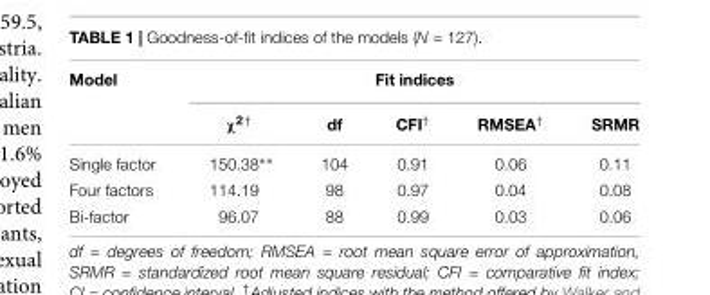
<table><thead><tr><td rowspan="2">Model</td><td colspan="5">Fit indices</td></tr><tr><td>χ<sup>2†</sup></td><td>df</td><td>CFI<sup>†</sup></td><td>RMSEA<sup>†</sup></td><td>SRMR</td></tr></thead><tbody><tr><td>Single factor</td><td>150.38∗∗</td><td>104</td><td>0.91</td><td>0.06</td><td>0.11</td></tr><tr><td>Four factors</td><td>114.19</td><td>98</td><td>0.97</td><td>0.04</td><td>0.08</td></tr><tr><td>Bi-factor</td><td>96.07</td><td>88</td><td>0.99</td><td>0.03</td><td>0.06</td></tr></tbody></table>